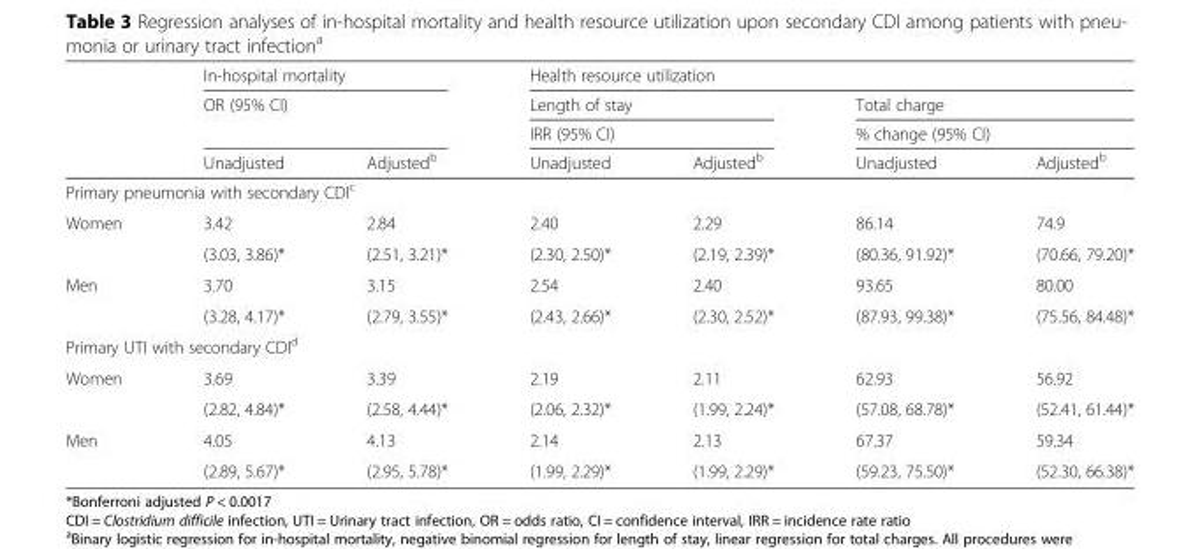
<table><thead><tr><td rowspan="4"></td><td rowspan="3" colspan="2">In-hospital mortality OR (95% CI)</td><td colspan="4">Health resource utilization</td></tr><tr><td rowspan="2" colspan="2">Length of stay IRR (95% CI)</td><td rowspan="2" colspan="2">Total charge % change (95% CI)</td></tr><tr></tr><tr><td>Unadjusted</td><td>Adjusted<sup>b</sup></td><td>Unadjusted</td><td>Adjusted<sup>b</sup></td><td>Unadjusted</td><td>Adjusted<sup>b</sup></td></tr></thead><tbody><tr><td colspan="7">Primary pneumonia with secondary CDI<sup>c</sup></td></tr><tr><td rowspan="2">Women</td><td>3.42</td><td>2.84</td><td>2.40</td><td>2.29</td><td>86.14</td><td>74.9</td></tr><tr><td>(3.03, 3.86)*</td><td>(2.51, 3.21)*</td><td>(2.30, 2.50)*</td><td>(2.19, 2.39)*</td><td>(80.36, 91.92)*</td><td>(70.66, 79.20)*</td></tr><tr><td rowspan="2">Men</td><td>3.70</td><td>3.15</td><td>2.54</td><td>2.40</td><td>93.65</td><td>80.00</td></tr><tr><td>(3.28, 4.17)*</td><td>(2.79, 3.55)*</td><td>(2.43, 2.66)*</td><td>(2.30, 2.52)*</td><td>(87.93, 99.38)*</td><td>(75.56, 84.48)*</td></tr><tr><td colspan="7">Primary UTI with secondary CDI<sup>d</sup></td></tr><tr><td rowspan="2">Women</td><td>3.69</td><td>3.39</td><td>2.19</td><td>2.11</td><td>62.93</td><td>56.92</td></tr><tr><td>(2.82, 4.84)*</td><td>(2.58, 4.44)*</td><td>(2.06, 2.32)*</td><td>(1.99, 2.24)*</td><td>(57.08, 68.78)*</td><td>(52.41, 61.44)*</td></tr><tr><td rowspan="2">Men</td><td>4.05</td><td>4.13</td><td>2.14</td><td>2.13</td><td>67.37</td><td>59.34</td></tr><tr><td>(2.89, 5.67)*</td><td>(2.95, 5.78)*</td><td>(1.99, 2.29)*</td><td>(1.99, 2.29)*</td><td>(59.23, 75.50)*</td><td>(52.30, 66.38)*</td></tr></tbody></table>